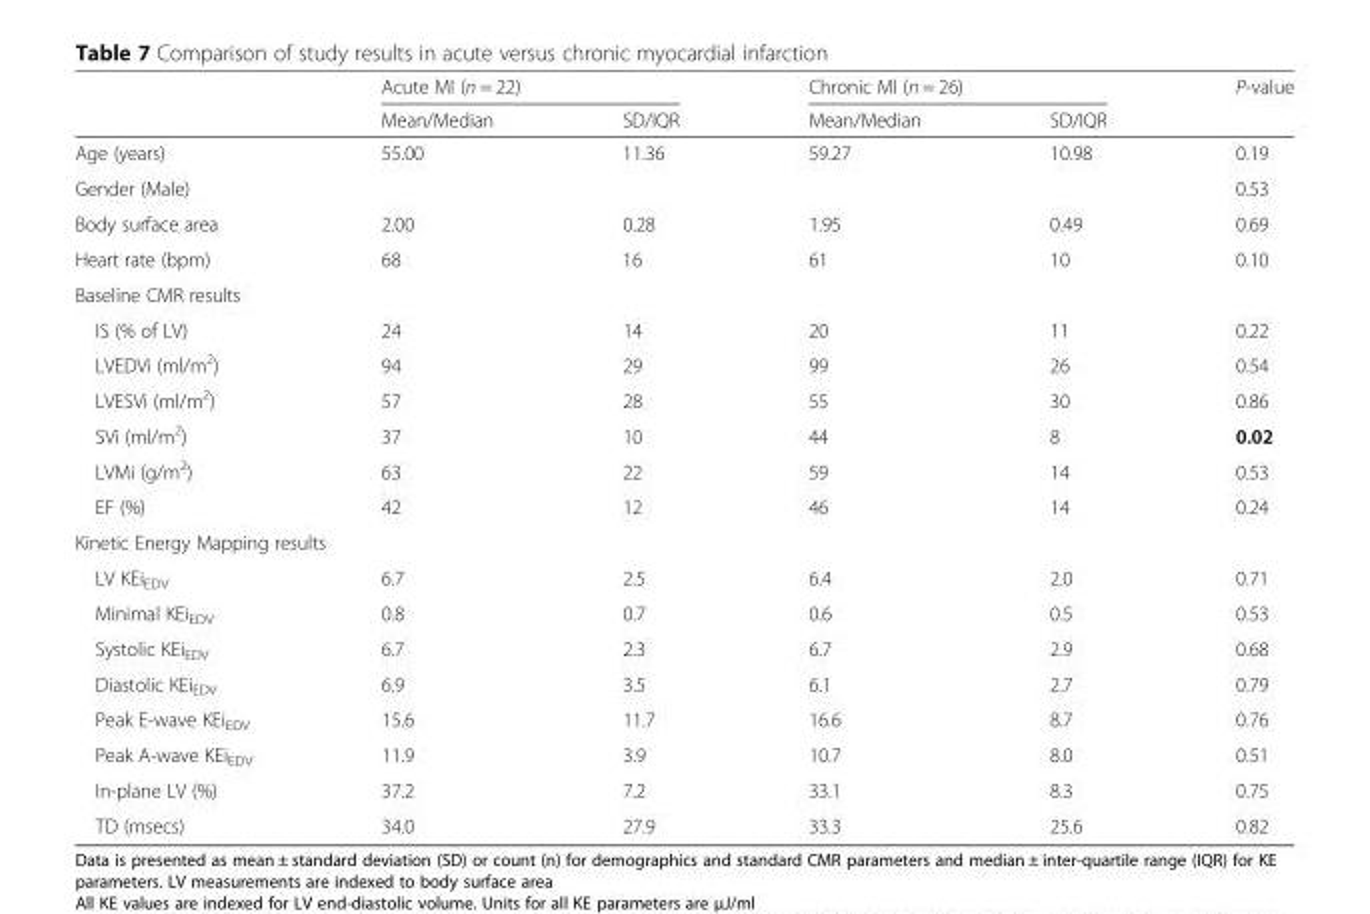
<table><thead><tr><td rowspan="2"></td><td colspan="2">Acute MI (n = 22)</td><td colspan="2">Chronic MI (n = 26)</td><td rowspan="2">P-value</td></tr><tr><td>Mean/Median</td><td>SD/IQR</td><td>Mean/Median</td><td>SD/IQR</td></tr></thead><tbody><tr><td>Age (years)</td><td>55.00</td><td>11.36</td><td>59.27</td><td>10.98</td><td>0.19</td></tr><tr><td>Gender (Male)</td><td></td><td></td><td></td><td></td><td>0.53</td></tr><tr><td>Body surface area</td><td>2.00</td><td>0.28</td><td>1.95</td><td>0.49</td><td>0.69</td></tr><tr><td>Heart rate (bpm)</td><td>68</td><td>16</td><td>61</td><td>10</td><td>0.10</td></tr><tr><td colspan="6">Baseline CMR results</td></tr><tr><td>IS (% of LV)</td><td>24</td><td>14</td><td>20</td><td>11</td><td>0.22</td></tr><tr><td>LVEDVi (ml/m<sup>2</sup>)</td><td>94</td><td>29</td><td>99</td><td>26</td><td>0.54</td></tr><tr><td>LVESVi (ml/m<sup>2</sup>)</td><td>57</td><td>28</td><td>55</td><td>30</td><td>0.86</td></tr><tr><td>SVi (ml/m<sup>2</sup>)</td><td>37</td><td>10</td><td>44</td><td>8</td><td>0.02</td></tr><tr><td>LVMi (g/m<sup>2</sup>)</td><td>63</td><td>22</td><td>59</td><td>14</td><td>0.53</td></tr><tr><td>EF (%)</td><td>42</td><td>12</td><td>46</td><td>14</td><td>0.24</td></tr><tr><td colspan="6">Kinetic Energy Mapping results</td></tr><tr><td>LV KEi<sub>EDV</sub></td><td>6.7</td><td>2.5</td><td>6.4</td><td>2.0</td><td>0.71</td></tr><tr><td>Minimal KEi<sub>EDV</sub></td><td>0.8</td><td>0.7</td><td>0.6</td><td>0.5</td><td>0.53</td></tr><tr><td>Systolic KEi<sub>EDV</sub></td><td>6.7</td><td>2.3</td><td>6.7</td><td>2.9</td><td>0.68</td></tr><tr><td>Diastolic KEi<sub>EDV</sub></td><td>6.9</td><td>3.5</td><td>6.1</td><td>2.7</td><td>0.79</td></tr><tr><td>Peak E-wave KEi<sub>EDV</sub></td><td>15.6</td><td>11.7</td><td>16.6</td><td>8.7</td><td>0.76</td></tr><tr><td>Peak A-wave KEi<sub>EDV</sub></td><td>11.9</td><td>3.9</td><td>10.7</td><td>8.0</td><td>0.51</td></tr><tr><td>In-plane LV (%)</td><td>37.2</td><td>7.2</td><td>33.1</td><td>8.3</td><td>0.75</td></tr><tr><td>TD (msecs)</td><td>34.0</td><td>27.9</td><td>33.3</td><td>25.6</td><td>0.82</td></tr></tbody></table>